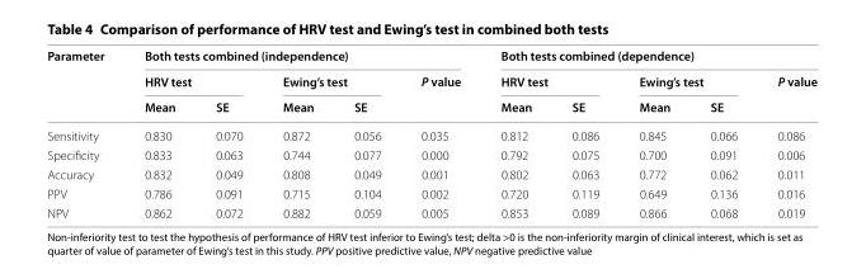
<table><thead><tr><td rowspan="3">Parameter</td><td colspan="5">Both tests combined (independence)</td><td colspan="5">Both tests combined (dependence)</td></tr><tr><td colspan="2">HRV test</td><td colspan="2">Ewing’s test</td><td rowspan="2">P value</td><td colspan="2">HRV test</td><td colspan="2">Ewing’s test</td><td rowspan="2">P value</td></tr><tr><td>Mean</td><td>SE</td><td>Mean</td><td>SE</td><td>Mean</td><td>SE</td><td>Mean</td><td>SE</td></tr></thead><tbody><tr><td>Sensitivity</td><td>0.830</td><td>0.070</td><td>0.872</td><td>0.056</td><td>0.035</td><td>0.812</td><td>0.086</td><td>0.845</td><td>0.066</td><td>0.086</td></tr><tr><td>Specificity</td><td>0.833</td><td>0.063</td><td>0.744</td><td>0.077</td><td>0.000</td><td>0.792</td><td>0.075</td><td>0.700</td><td>0.091</td><td>0.006</td></tr><tr><td>Accuracy</td><td>0.832</td><td>0.049</td><td>0.808</td><td>0.049</td><td>0.001</td><td>0.802</td><td>0.063</td><td>0.772</td><td>0.062</td><td>0.011</td></tr><tr><td>PPV</td><td>0.786</td><td>0.091</td><td>0.715</td><td>0.104</td><td>0.002</td><td>0.720</td><td>0.119</td><td>0.649</td><td>0.136</td><td>0.016</td></tr><tr><td>NPV</td><td>0.862</td><td>0.072</td><td>0.882</td><td>0.059</td><td>0.005</td><td>0.853</td><td>0.089</td><td>0.866</td><td>0.068</td><td>0.019</td></tr></tbody></table>